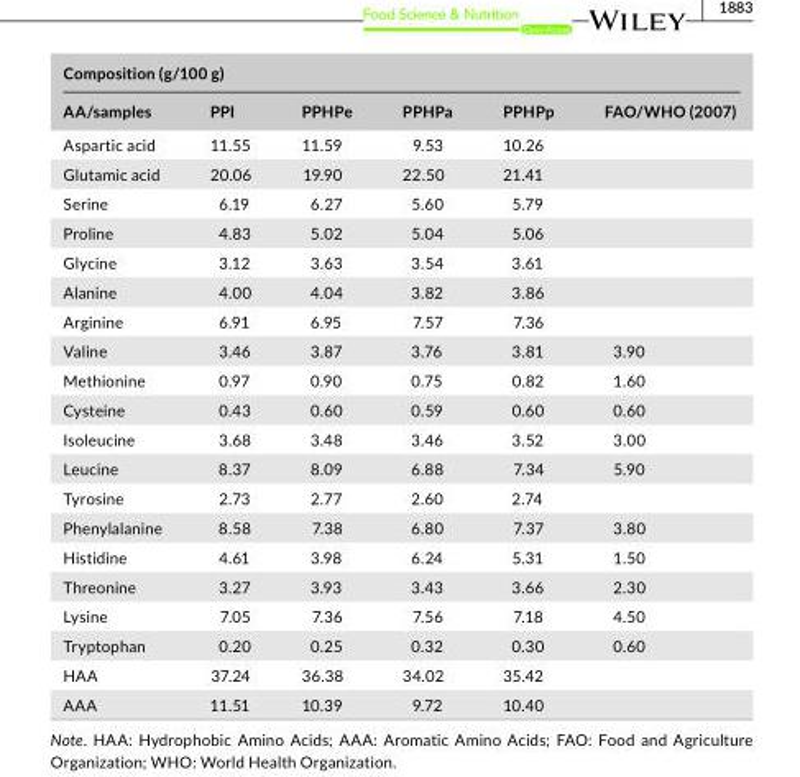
<table><thead><tr><td colspan="6">Composition (g/100 g)</td></tr><tr><td>AA/samples</td><td>PPI</td><td>PPHPe</td><td>PPHPa</td><td>PPHPp</td><td>FAO/WHO (2007)</td></tr></thead><tbody><tr><td>Aspartic acid</td><td>11.55</td><td>11.59</td><td>9.53</td><td>10.26</td><td></td></tr><tr><td>Glutamic acid</td><td>20.06</td><td>19.90</td><td>22.50</td><td>21.41</td><td></td></tr><tr><td>Serine</td><td>6.19</td><td>6.27</td><td>5.60</td><td>5.79</td><td></td></tr><tr><td>Proline</td><td>4.83</td><td>5.02</td><td>5.04</td><td>5.06</td><td></td></tr><tr><td>Glycine</td><td>3.12</td><td>3.63</td><td>3.54</td><td>3.61</td><td></td></tr><tr><td>Alanine</td><td>4.00</td><td>4.04</td><td>3.82</td><td>3.86</td><td></td></tr><tr><td>Arginine</td><td>6.91</td><td>6.95</td><td>7.57</td><td>7.36</td><td></td></tr><tr><td>Valine</td><td>3.46</td><td>3.87</td><td>3.76</td><td>3.81</td><td>3.90</td></tr><tr><td>Methionine</td><td>0.97</td><td>0.90</td><td>0.75</td><td>0.82</td><td>1.60</td></tr><tr><td>Cysteine</td><td>0.43</td><td>0.60</td><td>0.59</td><td>0.60</td><td>0.60</td></tr><tr><td>Isoleucine</td><td>3.68</td><td>3.48</td><td>3.46</td><td>3.52</td><td>3.00</td></tr><tr><td>Leucine</td><td>8.37</td><td>8.09</td><td>6.88</td><td>7.34</td><td>5.90</td></tr><tr><td>Tyrosine</td><td>2.73</td><td>2.77</td><td>2.60</td><td>2.74</td><td></td></tr><tr><td>Phenylalanine</td><td>8.58</td><td>7.38</td><td>6.80</td><td>7.37</td><td>3.80</td></tr><tr><td>Histidine</td><td>4.61</td><td>3.98</td><td>6.24</td><td>5.31</td><td>1.50</td></tr><tr><td>Threonine</td><td>3.27</td><td>3.93</td><td>3.43</td><td>3.66</td><td>2.30</td></tr><tr><td>Lysine</td><td>7.05</td><td>7.36</td><td>7.56</td><td>7.18</td><td>4.50</td></tr><tr><td>Tryptophan</td><td>0.20</td><td>0.25</td><td>0.32</td><td>0.30</td><td>0.60</td></tr><tr><td>HAA</td><td>37.24</td><td>36.38</td><td>34.02</td><td>35.42</td><td></td></tr><tr><td>AAA</td><td>11.51</td><td>10.39</td><td>9.72</td><td>10.40</td><td></td></tr></tbody></table>